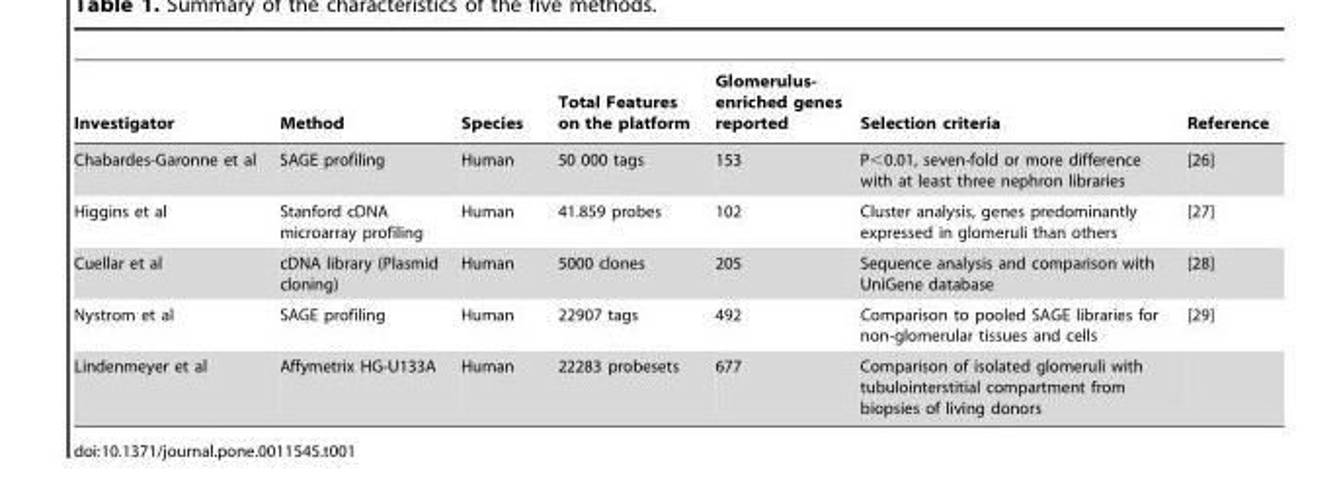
<table><thead><tr><td>Investigator</td><td>Method</td><td>Species</td><td>Total Features on the platform</td><td>Glomerulus- enriched genes reported</td><td>Selection criteria</td><td>Reference</td></tr></thead><tbody><tr><td>Chabardes-Garonne et al</td><td>SAGE profiling</td><td>Human</td><td>50 000 tags</td><td>153</td><td>P&lt;0.01, seven-fold or more difference with at least three nephron libraries</td><td>[26]</td></tr><tr><td>Higgins et al</td><td>Stanford cDNA microarray profiling</td><td>Human</td><td>41.859 probes</td><td>102</td><td>Cluster analysis, genes predominantly expressed in glomeruli than others</td><td>[27]</td></tr><tr><td>Cuellar et al</td><td>cDNA library (Plasmid cloning)</td><td>Human</td><td>5000 clones</td><td>205</td><td>Sequence analysis and comparison with UniGene database</td><td>[28]</td></tr><tr><td>Nystrom et al</td><td>SAGE profiling</td><td>Human</td><td>22907 tags</td><td>492</td><td>Comparison to pooled SAGE libraries for non-glomerular tissues and cells</td><td>[29]</td></tr><tr><td>Lindenmeyer et al</td><td>Affymetrix HG-U133A</td><td>Human</td><td>22283 probesets</td><td>677</td><td>Comparison of isolated glomeruli with tubulointerstitial compartment from biopsies of living donors</td><td></td></tr></tbody></table>